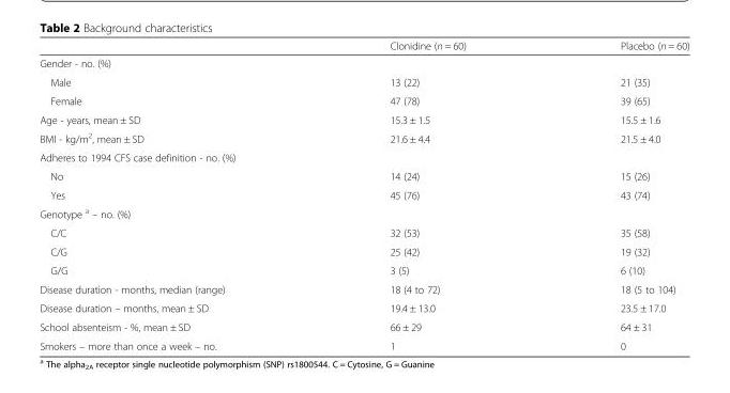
<table><thead><tr><td></td><td>Clonidine (n = 60)</td><td>Placebo (n = 60)</td></tr></thead><tbody><tr><td colspan="3">Gender - no. (%)</td></tr><tr><td>Male</td><td>13 (22)</td><td>21 (35)</td></tr><tr><td>Female</td><td>47 (78)</td><td>39 (65)</td></tr><tr><td>Age - years, mean ± SD</td><td>15.3 ± 1.5</td><td>15.5 ± 1.6</td></tr><tr><td>BMI - kg/m<sup>2</sup>, mean ± SD</td><td>21.6 ± 4.4</td><td>21.5 ± 4.0</td></tr><tr><td colspan="3">Adheres to 1994 CFS case definition - no. (%)</td></tr><tr><td>No</td><td>14 (24)</td><td>15 (26)</td></tr><tr><td>Yes</td><td>45 (76)</td><td>43 (74)</td></tr><tr><td colspan="3">Genotype <sup>a</sup> – no. (%)</td></tr><tr><td>C/C</td><td>32 (53)</td><td>35 (58)</td></tr><tr><td>C/G</td><td>25 (42)</td><td>19 (32)</td></tr><tr><td>G/G</td><td>3 (5)</td><td>6 (10)</td></tr><tr><td>Disease duration - months, median (range)</td><td>18 (4 to 72)</td><td>18 (5 to 104)</td></tr><tr><td>Disease duration – months, mean ± SD</td><td>19.4 ± 13.0</td><td>23.5 ± 17.0</td></tr><tr><td>School absenteism - %, mean ± SD</td><td>66 ± 29</td><td>64 ± 31</td></tr><tr><td>Smokers – more than once a week – no.</td><td>1</td><td>0</td></tr></tbody></table>